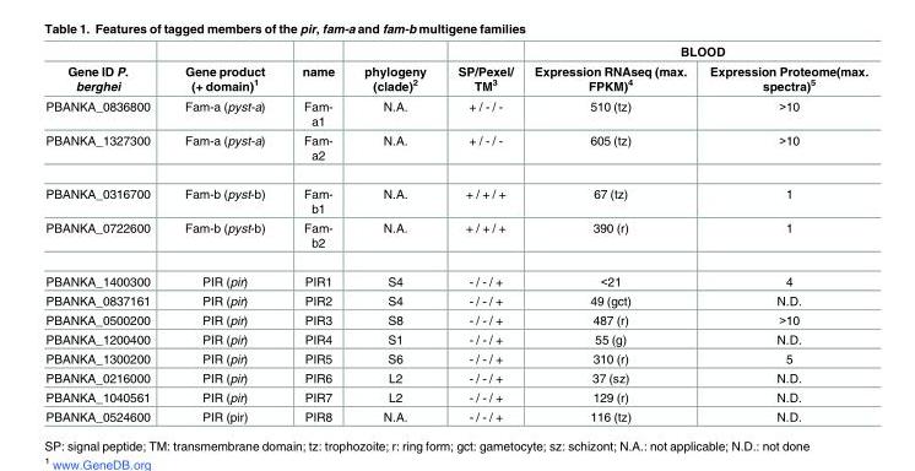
<table><thead><tr><td rowspan="2">Gene ID P. berghei</td><td rowspan="2">Gene product (+ domain)<sup>1</sup></td><td rowspan="2">name</td><td rowspan="2">phylogeny (clade)<sup>2</sup></td><td rowspan="2">SP/Pexel/ TM<sup>3</sup></td><td colspan="2">BLOOD</td></tr><tr><td>Expression RNAseq (max. FPKM)<sup>4</sup></td><td>Expression Proteome(max. spectra)<sup>5</sup></td></tr></thead><tbody><tr><td>PBANKA_0836800</td><td>Fam-a (pyst-a)</td><td>Fam- a1</td><td>N.A.</td><td>+ / - / -</td><td>510 (tz)</td><td>&gt;10</td></tr><tr><td>PBANKA_1327300</td><td>Fam-a (pyst-a)</td><td>Fam- a2</td><td>N.A.</td><td>+ / - / -</td><td>605 (tz)</td><td>&gt;10</td></tr><tr><td>PBANKA_0316700</td><td>Fam-b (pyst-b)</td><td>Fam- b1</td><td>N.A.</td><td>+ / + / +</td><td>67 (tz)</td><td>1</td></tr><tr><td>PBANKA_0722600</td><td>Fam-b (pyst-b)</td><td>Fam- b2</td><td>N.A.</td><td>+ / + / +</td><td>390 (r)</td><td>1</td></tr><tr><td>PBANKA_1400300</td><td>PIR (pir)</td><td>PIR1</td><td>S4</td><td>- / - / +</td><td>&lt;21</td><td>4</td></tr><tr><td>PBANKA_0837161</td><td>PIR (pir)</td><td>PIR2</td><td>S4</td><td>- / - / +</td><td>49 (gct)</td><td>N.D.</td></tr><tr><td>PBANKA_0500200</td><td>PIR (pir)</td><td>PIR3</td><td>S8</td><td>- / - / +</td><td>487 (r)</td><td>&gt;10</td></tr><tr><td>PBANKA_1200400</td><td>PIR (pir)</td><td>PIR4</td><td>S1</td><td>- / - / +</td><td>55 (g)</td><td>N.D.</td></tr><tr><td>PBANKA_1300200</td><td>PIR (pir)</td><td>PIR5</td><td>S6</td><td>- / - / +</td><td>310 (r)</td><td>5</td></tr><tr><td>PBANKA_0216000</td><td>PIR (pir)</td><td>PIR6</td><td>L2</td><td>- / - / +</td><td>37 (sz)</td><td>N.D.</td></tr><tr><td>PBANKA_1040561</td><td>PIR (pir)</td><td>PIR7</td><td>L2</td><td>- / - / +</td><td>129 (r)</td><td>N.D.</td></tr><tr><td>PBANKA_0524600</td><td>PIR (pir)</td><td>PIR8</td><td>N.A.</td><td>- / - / +</td><td>116 (tz)</td><td>N.D.</td></tr></tbody></table>